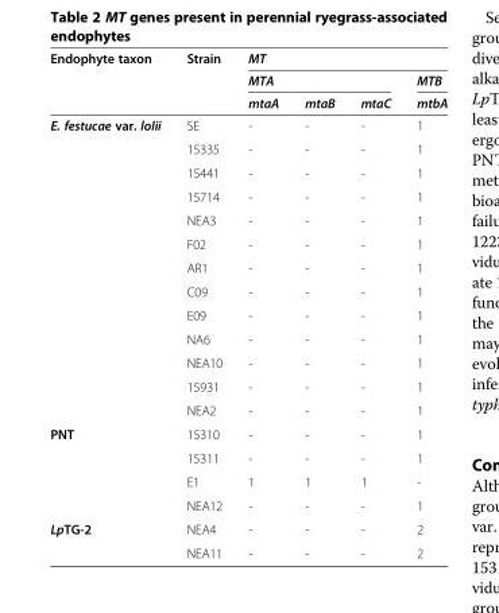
<table><thead><tr><td rowspan="3">Endophyte taxon</td><td rowspan="3">Strain</td><td colspan="4">MT</td></tr><tr><td colspan="3">MTA</td><td rowspan="2">MTB mtbA</td></tr><tr><td>mtaA</td><td>mtaB</td><td>mtaC</td></tr></thead><tbody><tr><td rowspan="13">E. festucae var. lolii</td><td>SE</td><td>-</td><td>-</td><td>-</td><td>1</td></tr><tr><td>15335</td><td>-</td><td>-</td><td>-</td><td>1</td></tr><tr><td>15441</td><td>-</td><td>-</td><td>-</td><td>1</td></tr><tr><td>15714</td><td>-</td><td>-</td><td>-</td><td>1</td></tr><tr><td>NEA3</td><td>-</td><td>-</td><td>-</td><td>1</td></tr><tr><td>F02</td><td>-</td><td>-</td><td>-</td><td>1</td></tr><tr><td>AR1</td><td>-</td><td>-</td><td>-</td><td>1</td></tr><tr><td>C09</td><td>-</td><td>-</td><td>-</td><td>1</td></tr><tr><td>E09</td><td>-</td><td>-</td><td>-</td><td>1</td></tr><tr><td>NA6</td><td>-</td><td>-</td><td>-</td><td>1</td></tr><tr><td>NEA10</td><td>-</td><td>-</td><td>-</td><td>1</td></tr><tr><td>15931</td><td>-</td><td>-</td><td>-</td><td>1</td></tr><tr><td>NEA2</td><td>-</td><td>-</td><td>-</td><td>1</td></tr><tr><td rowspan="4">PNT</td><td>15310</td><td>-</td><td>-</td><td>-</td><td>1</td></tr><tr><td>15311</td><td>-</td><td>-</td><td>-</td><td>1</td></tr><tr><td>E1</td><td>1</td><td>1</td><td>1</td><td>-</td></tr><tr><td>NEA12</td><td>-</td><td>-</td><td>-</td><td>1</td></tr><tr><td rowspan="2">LpTG-2</td><td>NEA4</td><td>-</td><td>-</td><td>-</td><td>2</td></tr><tr><td>NEA11</td><td>-</td><td>-</td><td>-</td><td>2</td></tr></tbody></table>